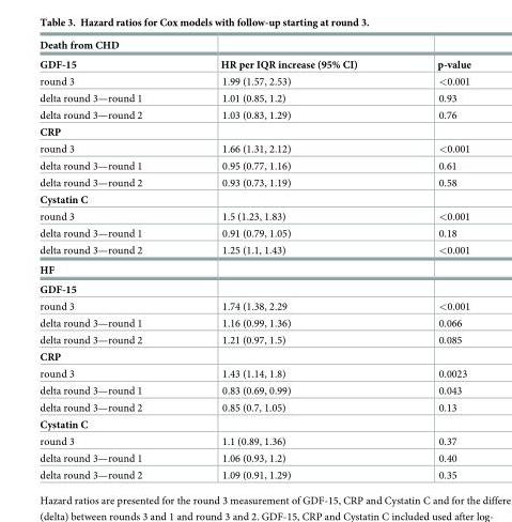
<table><thead><tr><td rowspan="2">Death from CHD GDF-15</td><td rowspan="2">HR per IQR increase (95% CI)</td><td rowspan="2">p-value</td></tr><tr></tr></thead><tbody><tr><td>round 3</td><td>1.99 (1.57, 2.53)</td><td>&lt;0.001</td></tr><tr><td>delta round 3—round 1</td><td>1.01 (0.85, 1.2)</td><td>0.93</td></tr><tr><td>delta round 3—round 2</td><td>1.03 (0.83, 1.29)</td><td>0.76</td></tr><tr><td colspan="3">CRP</td></tr><tr><td>round 3</td><td>1.66 (1.31, 2.12)</td><td>&lt;0.001</td></tr><tr><td>delta round 3—round 1</td><td>0.95 (0.77, 1.16)</td><td>0.61</td></tr><tr><td>delta round 3—round 2</td><td>0.93 (0.73, 1.19)</td><td>0.58</td></tr><tr><td colspan="3">Cystatin C</td></tr><tr><td>round 3</td><td>1.5 (1.23, 1.83)</td><td>&lt;0.001</td></tr><tr><td>delta round 3—round 1</td><td>0.91 (0.79, 1.05)</td><td>0.18</td></tr><tr><td>delta round 3—round 2</td><td>1.25 (1.1, 1.43)</td><td>&lt;0.001</td></tr><tr><td colspan="3">HF</td></tr><tr><td colspan="3">GDF-15</td></tr><tr><td>round 3</td><td>1.74 (1.38, 2.29</td><td>&lt;0.001</td></tr><tr><td>delta round 3—round 1</td><td>1.16 (0.99, 1.36)</td><td>0.066</td></tr><tr><td>delta round 3—round 2</td><td>1.21 (0.97, 1.5)</td><td>0.085</td></tr><tr><td colspan="3">CRP</td></tr><tr><td>round 3</td><td>1.43 (1.14, 1.8)</td><td>0.0023</td></tr><tr><td>delta round 3—round 1</td><td>0.83 (0.69, 0.99)</td><td>0.043</td></tr><tr><td>delta round 3—round 2</td><td>0.85 (0.7, 1.05)</td><td>0.13</td></tr><tr><td colspan="3">Cystatin C</td></tr><tr><td>round 3</td><td>1.1 (0.89, 1.36)</td><td>0.37</td></tr><tr><td>delta round 3—round 1</td><td>1.06 (0.93, 1.2)</td><td>0.40</td></tr><tr><td>delta round 3—round 2</td><td>1.09 (0.91, 1.29)</td><td>0.35</td></tr></tbody></table>